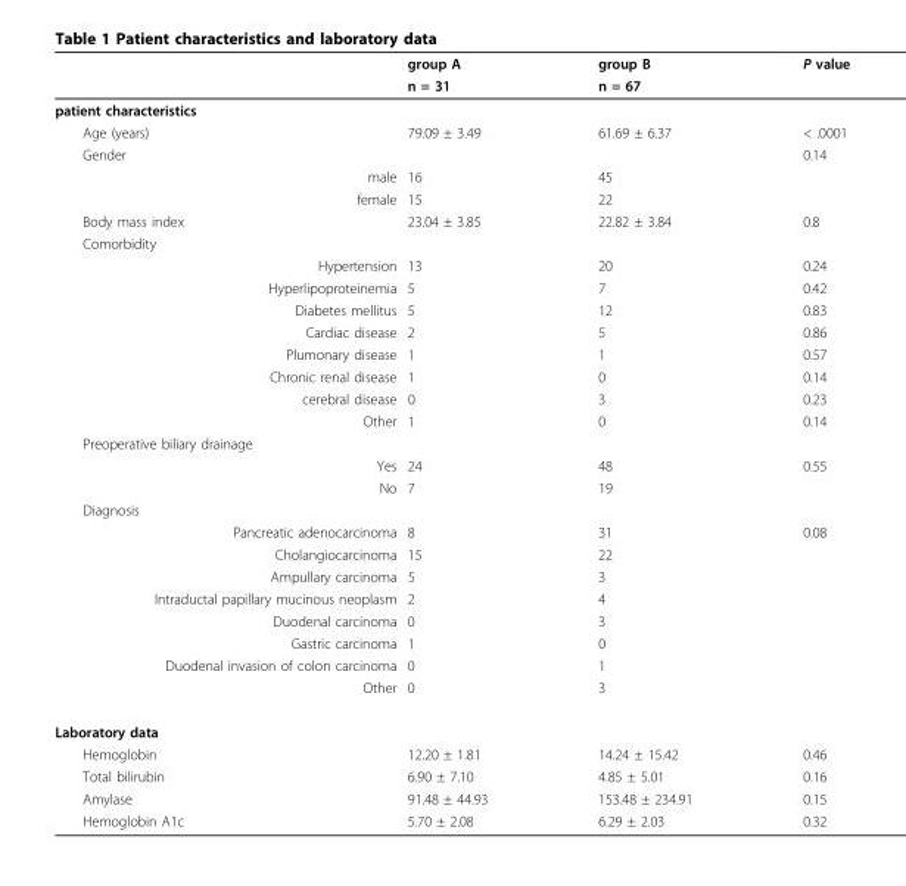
<table><thead><tr><td rowspan="2"></td><td rowspan="2">group A n = 31</td><td rowspan="2">group B n = 67</td><td rowspan="2">P value</td></tr><tr></tr></thead><tbody><tr><td colspan="4">patient characteristics</td></tr><tr><td>Age (years)</td><td>79.09 ± 3.49</td><td>61.69 ± 6.37</td><td>&lt; .0001</td></tr><tr><td>Gender</td><td></td><td></td><td>0.14</td></tr><tr><td>male</td><td>16</td><td>45</td><td></td></tr><tr><td>female</td><td>15</td><td>22</td><td></td></tr><tr><td>Body mass index</td><td>23.04 ± 3.85</td><td>22.82 ± 3.84</td><td>0.8</td></tr><tr><td colspan="4">Comorbidity</td></tr><tr><td>Hypertension</td><td>13</td><td>20</td><td>0.24</td></tr><tr><td>Hyperlipoproteinemia</td><td>5</td><td>7</td><td>0.42</td></tr><tr><td>Diabetes mellitus</td><td>5</td><td>12</td><td>0.83</td></tr><tr><td>Cardiac disease</td><td>2</td><td>5</td><td>0.86</td></tr><tr><td>Plumonary disease</td><td>1</td><td>1</td><td>0.57</td></tr><tr><td>Chronic renal disease</td><td>1</td><td>0</td><td>0.14</td></tr><tr><td>cerebral disease</td><td>0</td><td>3</td><td>0.23</td></tr><tr><td>Other</td><td>1</td><td>0</td><td>0.14</td></tr><tr><td colspan="4">Preoperative biliary drainage</td></tr><tr><td>Yes</td><td>24</td><td>48</td><td>0.55</td></tr><tr><td>No</td><td>7</td><td>19</td><td></td></tr><tr><td colspan="4">Diagnosis</td></tr><tr><td>Pancreatic adenocarcinoma</td><td>8</td><td>31</td><td>0.08</td></tr><tr><td>Cholangiocarcinoma</td><td>15</td><td>22</td><td></td></tr><tr><td>Ampullary carcinoma</td><td>5</td><td>3</td><td></td></tr><tr><td>Intraductal papillary mucinous neoplasm</td><td>2</td><td>4</td><td></td></tr><tr><td>Duodenal carcinoma</td><td>0</td><td>3</td><td></td></tr><tr><td>Gastric carcinoma</td><td>1</td><td>0</td><td></td></tr><tr><td>Duodenal invasion of colon carcinoma</td><td>0</td><td>1</td><td></td></tr><tr><td>Other</td><td>0</td><td>3</td><td></td></tr><tr><td colspan="4">Laboratory data</td></tr><tr><td>Hemoglobin</td><td>12.20 ± 1.81</td><td>14.24 ± 15.42</td><td>0.46</td></tr><tr><td>Total bilirubin</td><td>6.90 ± 7.10</td><td>4.85 ± 5.01</td><td>0.16</td></tr><tr><td>Amylase</td><td>91.48 ± 44.93</td><td>153.48 ± 234.91</td><td>0.15</td></tr><tr><td>Hemoglobin A1c</td><td>5.70 ± 2.08</td><td>6.29 ± 2.03</td><td>0.32</td></tr></tbody></table>